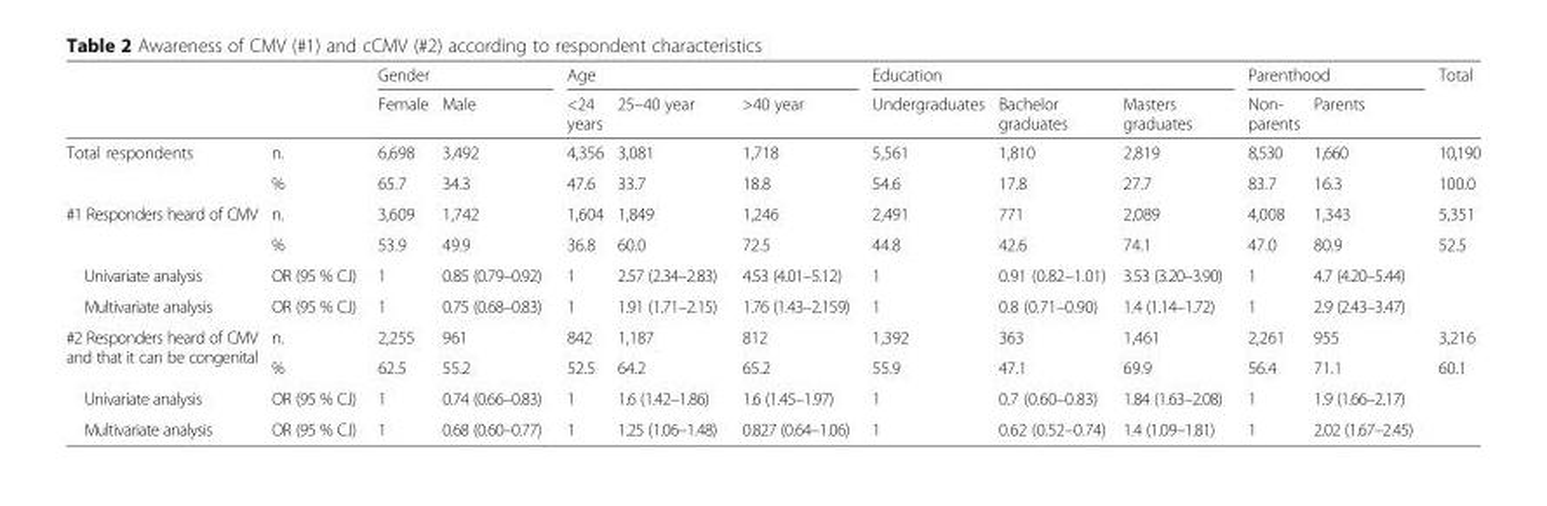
<table><thead><tr><td rowspan="2"></td><td rowspan="2"></td><td colspan="2">Gender</td><td colspan="3">Age</td><td colspan="3">Education</td><td colspan="2">Parenthood</td><td rowspan="2">Total</td></tr><tr><td>Female</td><td>Male</td><td>&lt;24 years</td><td>25–40 year</td><td>&gt;40 year</td><td>Undergraduates</td><td>Bachelor graduates</td><td>Masters graduates</td><td>Non- parents</td><td>Parents</td></tr></thead><tbody><tr><td rowspan="2">Total respondents</td><td>n.</td><td>6,698</td><td>3,492</td><td>4,356</td><td>3,081</td><td>1,718</td><td>5,561</td><td>1,810</td><td>2,819</td><td>8,530</td><td>1,660</td><td>10,190</td></tr><tr><td>%</td><td>65.7</td><td>34.3</td><td>47.6</td><td>33.7</td><td>18.8</td><td>54.6</td><td>17.8</td><td>27.7</td><td>83.7</td><td>16.3</td><td>100.0</td></tr><tr><td rowspan="2">#1 Responders heard of CMV</td><td>n.</td><td>3,609</td><td>1,742</td><td>1,604</td><td>1,849</td><td>1,246</td><td>2,491</td><td>771</td><td>2,089</td><td>4,008</td><td>1,343</td><td>5,351</td></tr><tr><td>%</td><td>53.9</td><td>49.9</td><td>36.8</td><td>60.0</td><td>72.5</td><td>44.8</td><td>42.6</td><td>74.1</td><td>47.0</td><td>80.9</td><td>52.5</td></tr><tr><td>Univariate analysis</td><td>OR (95 % C.I)</td><td>1</td><td>0.85 (0.79–0.92)</td><td>1</td><td>2.57 (2.34–2.83)</td><td>4.53 (4.01–5.12)</td><td>1</td><td>0.91 (0.82–1.01)</td><td>3.53 (3.20–3.90)</td><td>1</td><td>4.7 (4.20–5.44)</td><td></td></tr><tr><td>Multivariate analysis</td><td>OR (95 % C.I)</td><td>1</td><td>0.75 (0.68–0.83)</td><td>1</td><td>1.91 (1.71–2.15)</td><td>1.76 (1.43–2.159)</td><td>1</td><td>0.8 (0.71–0.90)</td><td>1.4 (1.14–1.72)</td><td>1</td><td>2.9 (2.43–3.47)</td><td></td></tr><tr><td rowspan="2">#2 Responders heard of CMV and that it can be congenital</td><td>n.</td><td>2,255</td><td>961</td><td>842</td><td>1,187</td><td>812</td><td>1,392</td><td>363</td><td>1,461</td><td>2,261</td><td>955</td><td>3,216</td></tr><tr><td>%</td><td>62.5</td><td>55.2</td><td>52.5</td><td>64.2</td><td>65.2</td><td>55.9</td><td>47.1</td><td>69.9</td><td>56.4</td><td>71.1</td><td>60.1</td></tr><tr><td>Univariate analysis</td><td>OR (95 % C.I)</td><td>1</td><td>0.74 (0.66–0.83)</td><td>1</td><td>1.6 (1.42–1.86)</td><td>1.6 (1.45–1.97)</td><td>1</td><td>0.7 (0.60–0.83)</td><td>1.84 (1.63–2.08)</td><td>1</td><td>1.9 (1.66–2.17)</td><td></td></tr><tr><td>Multivariate analysis</td><td>OR (95 % C.I)</td><td>1</td><td>0.68 (0.60–0.77)</td><td>1</td><td>1.25 (1.06–1.48)</td><td>0.827 (0.64–1.06)</td><td>1</td><td>0.62 (0.52–0.74)</td><td>1.4 (1.09–1.81)</td><td>1</td><td>2.02 (1.67–2.45)</td><td></td></tr></tbody></table>